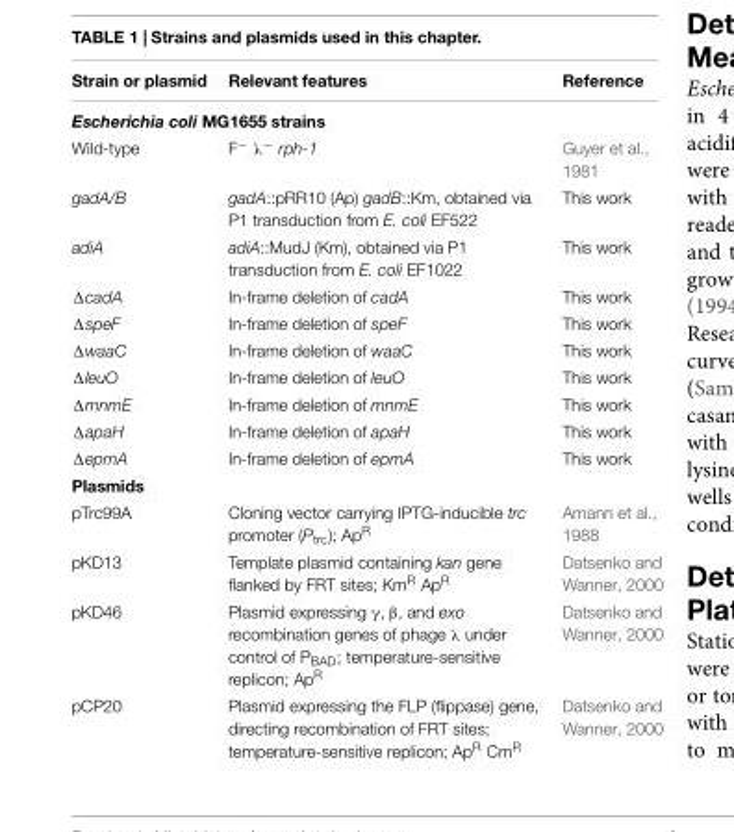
<table><thead><tr><td>Strain or plasmid</td><td>Relevant features</td><td>Reference</td></tr></thead><tbody><tr><td colspan="3">Escherichia coli MG1655 strains</td></tr><tr><td>Wild-type</td><td>F<sup>−</sup> λ<sup>−</sup> rph-1</td><td>Guyer et al., 1981</td></tr><tr><td>gadA/B</td><td>gadA::pRR10 (Ap) gadB::Km, obtained via P1 transduction from E. coli EF522</td><td>This work</td></tr><tr><td>adiA</td><td>adiA::MudJ (Km), obtained via P1 transduction from E. coli EF1022</td><td>This work</td></tr><tr><td>ΔcadA</td><td>In-frame deletion of cadA</td><td>This work</td></tr><tr><td>ΔspeF</td><td>In-frame deletion of speF</td><td>This work</td></tr><tr><td>ΔwaaC</td><td>In-frame deletion of waaC</td><td>This work</td></tr><tr><td>ΔleuO</td><td>In-frame deletion of leuO</td><td>This work</td></tr><tr><td>ΔmnmE</td><td>In-frame deletion of mnmE</td><td>This work</td></tr><tr><td>ΔapaH</td><td>In-frame deletion of apaH</td><td>This work</td></tr><tr><td>ΔepmA</td><td>In-frame deletion of epmA</td><td>This work</td></tr><tr><td colspan="3">Plasmids</td></tr><tr><td>pTrc99A</td><td>Cloning vector carrying IPTG-inducible trc promoter (P<sub>trc</sub>); Ap<sup>R</sup></td><td>Amann et al., 1988</td></tr><tr><td>pKD13</td><td>Template plasmid containing kan gene flanked by FRT sites; Km<sup>R</sup> Ap<sup>R</sup></td><td>Datsenko and Wanner, 2000</td></tr><tr><td>pKD46</td><td>Plasmid expressing γ, β, and exo recombination genes of phage λ under control of P<sub>BAD</sub>; temperature-sensitive replicon; Ap<sup>R</sup></td><td>Datsenko and Wanner, 2000</td></tr><tr><td>pCP20</td><td>Plasmid expressing the FLP (flippase) gene, directing recombination of FRT sites; temperature-sensitive replicon; Ap<sup>R</sup> Cm<sup>R</sup></td><td>Datsenko and Wanner, 2000</td></tr></tbody></table>